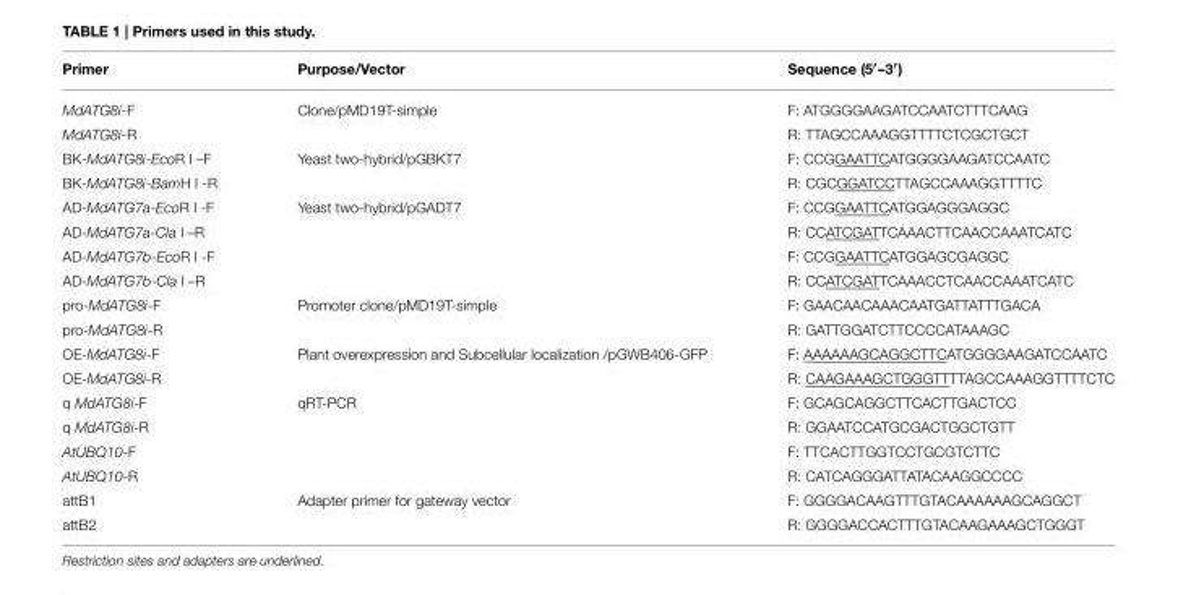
<table><thead><tr><td>Primer</td><td>Purpose/Vector</td><td>Sequence (5′–3′)</td></tr></thead><tbody><tr><td>MdATG8i-F</td><td>Clone/pMD19T-simple</td><td>F: ATGGGGAAGATCCAATCTTTCAAG</td></tr><tr><td>MdATG8i-R</td><td></td><td>R: TTAGCCAAAGGTTTTCTCGCTGCT</td></tr><tr><td>BK-MdATG8i-EcoR I –F</td><td>Yeast two-hybrid/pGBKT7</td><td>F: CCGGAATTCATGGGGAAGATCCAATC</td></tr><tr><td>BK-MdATG8i-BamH I -R</td><td></td><td>R: CGCGGATCCTTAGCCAAAGGTTTTC</td></tr><tr><td>AD-MdATG7a-EcoR I -F</td><td>Yeast two-hybrid/pGADT7</td><td>F: CCGGAATTCATGGAGGGAGGC</td></tr><tr><td>AD-MdATG7a-Cla I –R</td><td></td><td>R: CCATCGATTCAAACTTCAACCAAATCATC</td></tr><tr><td>AD-MdATG7b-EcoR I -F</td><td></td><td>F: CCGGAATTCATGGAGCGAGGC</td></tr><tr><td>AD-MdATG7b-Cla I –R</td><td></td><td>R: CCATCGATTCAAACCTCAACCAAATCATC</td></tr><tr><td>pro-MdATG8i-F</td><td>Promoter clone/pMD19T-simple</td><td>F: GAACAACAAACAATGATTATTTGACA</td></tr><tr><td>pro-MdATG8i-R</td><td></td><td>R: GATTGGATCTTCCCCATAAAGC</td></tr><tr><td>OE-MdATG8i-F</td><td>Plant overexpression and Subcellular localization /pGWB406-GFP</td><td>F: AAAAAAGCAGGCTTCATGGGGAAGATCCAATC</td></tr><tr><td>OE-MdATG8i-R</td><td></td><td>R: CAAGAAAGCTGGGTTTTAGCCAAAGGTTTTCTC</td></tr><tr><td>q MdATG8i-F</td><td>qRT-PCR</td><td>F: GCAGCAGGCTTCACTTGACTCC</td></tr><tr><td>q MdATG8i-R</td><td></td><td>R: GGAATCCATGCGACTGGCTGTT</td></tr><tr><td>AtUBQ10-F</td><td></td><td>F: TTCACTTGGTCCTGCGTCTTC</td></tr><tr><td>AtUBQ10-R</td><td></td><td>R: CATCAGGGATTATACAAGGCCCC</td></tr><tr><td>attB1</td><td>Adapter primer for gateway vector</td><td>F: GGGGACAAGTTTGTACAAAAAAGCAGGCT</td></tr><tr><td>attB2</td><td></td><td>R: GGGGACCACTTTGTACAAGAAAGCTGGGT</td></tr></tbody></table>